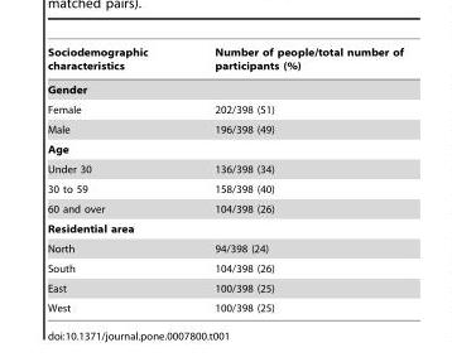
<table><thead><tr><td>Sociodemographic characteristics</td><td>Number of people/total number of participants (%)</td></tr></thead><tbody><tr><td colspan="2">Gender</td></tr><tr><td>Female</td><td>202/398 (51)</td></tr><tr><td>Male</td><td>196/398 (49)</td></tr><tr><td colspan="2">Age</td></tr><tr><td>Under 30</td><td>136/398 (34)</td></tr><tr><td>30 to 59</td><td>158/398 (40)</td></tr><tr><td>60 and over</td><td>104/398 (26)</td></tr><tr><td colspan="2">Residential area</td></tr><tr><td>North</td><td>94/398 (24)</td></tr><tr><td>South</td><td>104/398 (26)</td></tr><tr><td>East</td><td>100/398 (25)</td></tr><tr><td>West</td><td>100/398 (25)</td></tr></tbody></table>